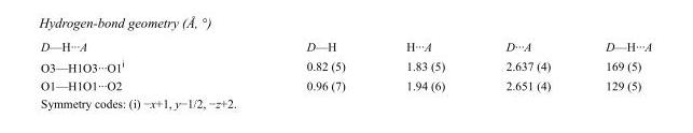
<table><tbody><tr><td>D—H···A</td><td>D—H</td><td>H···A</td><td>D···A</td><td>D—H···A</td></tr><tr><td>O3—H1O3···O1<sup>i</sup></td><td>0.82 (5)</td><td>1.83 (5)</td><td>2.637 (4)</td><td>169 (5)</td></tr><tr><td>O1—H1O1···O2</td><td>0.96 (7)</td><td>1.94 (6)</td><td>2.651 (4)</td><td>129 (5)</td></tr></tbody></table>